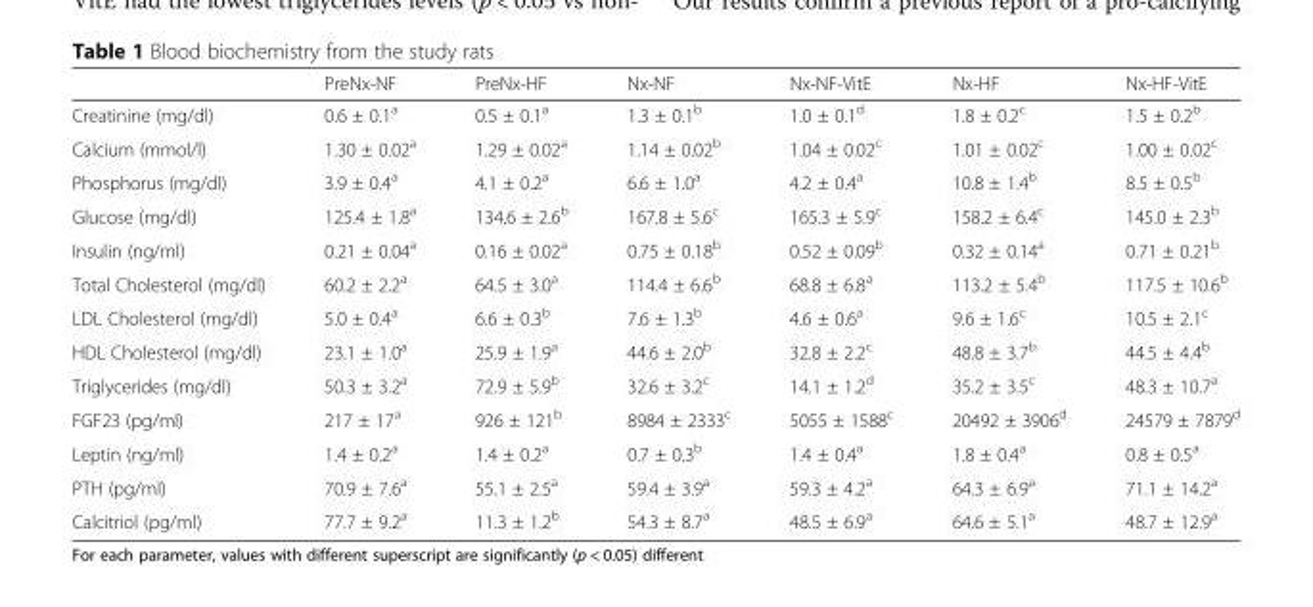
<table><thead><tr><td></td><td>PreNx-NF</td><td>PreNx-HF</td><td>Nx-NF</td><td>Nx-NF-VitE</td><td>Nx-HF</td><td>Nx-HF-VitE</td></tr></thead><tbody><tr><td>Creatinine (mg/dl)</td><td>0.6 ± 0.1<sup>a</sup></td><td>0.5 ± 0.1<sup>a</sup></td><td>1.3 ± 0.1<sup>b</sup></td><td>1.0 ± 0.1<sup>d</sup></td><td>1.8 ± 0.2<sup>c</sup></td><td>1.5 ± 0.2<sup>b</sup></td></tr><tr><td>Calcium (mmol/l)</td><td>1.30 ± 0.02<sup>a</sup></td><td>1.29 ± 0.02<sup>a</sup></td><td>1.14 ± 0.02<sup>b</sup></td><td>1.04 ± 0.02<sup>c</sup></td><td>1.01 ± 0.02<sup>c</sup></td><td>1.00 ± 0.02<sup>c</sup></td></tr><tr><td>Phosphorus (mg/dl)</td><td>3.9 ± 0.4<sup>a</sup></td><td>4.1 ± 0.2<sup>a</sup></td><td>6.6 ± 1.0<sup>a</sup></td><td>4.2 ± 0.4<sup>a</sup></td><td>10.8 ± 1.4<sup>b</sup></td><td>8.5 ± 0.5<sup>b</sup></td></tr><tr><td>Glucose (mg/dl)</td><td>125.4 ± 1.8<sup>a</sup></td><td>134.6 ± 2.6<sup>b</sup></td><td>167.8 ± 5.6<sup>c</sup></td><td>165.3 ± 5.9<sup>c</sup></td><td>158.2 ± 6.4<sup>c</sup></td><td>145.0 ± 2.3<sup>b</sup></td></tr><tr><td>Insulin (ng/ml)</td><td>0.21 ± 0.04<sup>a</sup></td><td>0.16 ± 0.02<sup>a</sup></td><td>0.75 ± 0.18<sup>b</sup></td><td>0.52 ± 0.09<sup>b</sup></td><td>0.32 ± 0.14<sup>a</sup></td><td>0.71 ± 0.21<sup>b</sup></td></tr><tr><td>Total Cholesterol (mg/dl)</td><td>60.2 ± 2.2<sup>a</sup></td><td>64.5 ± 3.0<sup>a</sup></td><td>114.4 ± 6.6<sup>b</sup></td><td>68.8 ± 6.8<sup>a</sup></td><td>113.2 ± 5.4<sup>b</sup></td><td>117.5 ± 10.6<sup>b</sup></td></tr><tr><td>LDL Cholesterol (mg/dl)</td><td>5.0 ± 0.4<sup>a</sup></td><td>6.6 ± 0.3<sup>b</sup></td><td>7.6 ± 1.3<sup>b</sup></td><td>4.6 ± 0.6<sup>a</sup></td><td>9.6 ± 1.6<sup>c</sup></td><td>10.5 ± 2.1<sup>c</sup></td></tr><tr><td>HDL Cholesterol (mg/dl)</td><td>23.1 ± 1.0<sup>a</sup></td><td>25.9 ± 1.9<sup>a</sup></td><td>44.6 ± 2.0<sup>b</sup></td><td>32.8 ± 2.2<sup>c</sup></td><td>48.8 ± 3.7<sup>b</sup></td><td>44.5 ± 4.4<sup>b</sup></td></tr><tr><td>Triglycerides (mg/dl)</td><td>50.3 ± 3.2<sup>a</sup></td><td>72.9 ± 5.9<sup>b</sup></td><td>32.6 ± 3.2<sup>c</sup></td><td>14.1 ± 1.2<sup>d</sup></td><td>35.2 ± 3.5<sup>c</sup></td><td>48.3 ± 10.7<sup>a</sup></td></tr><tr><td>FGF23 (pg/ml)</td><td>217 ± 17<sup>a</sup></td><td>926 ± 121<sup>b</sup></td><td>8984 ± 2333<sup>c</sup></td><td>5055 ± 1588<sup>c</sup></td><td>20492 ± 3906<sup>d</sup></td><td>24579 ± 7879<sup>d</sup></td></tr><tr><td>Leptin (ng/ml)</td><td>1.4 ± 0.2<sup>a</sup></td><td>1.4 ± 0.2<sup>a</sup></td><td>0.7 ± 0.3<sup>b</sup></td><td>1.4 ± 0.4<sup>a</sup></td><td>1.8 ± 0.4<sup>a</sup></td><td>0.8 ± 0.5<sup>a</sup></td></tr><tr><td>PTH (pg/ml)</td><td>70.9 ± 7.6<sup>a</sup></td><td>55.1 ± 2.5<sup>a</sup></td><td>59.4 ± 3.9<sup>a</sup></td><td>59.3 ± 4.2<sup>a</sup></td><td>64.3 ± 6.9<sup>a</sup></td><td>71.1 ± 14.2<sup>a</sup></td></tr><tr><td>Calcitriol (pg/ml)</td><td>77.7 ± 9.2<sup>a</sup></td><td>11.3 ± 1.2<sup>b</sup></td><td>54.3 ± 8.7<sup>a</sup></td><td>48.5 ± 6.9<sup>a</sup></td><td>64.6 ± 5.1<sup>a</sup></td><td>48.7 ± 12.9<sup>a</sup></td></tr></tbody></table>